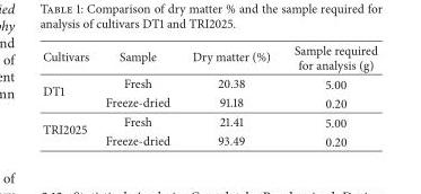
<table><thead><tr><td>Cultivars</td><td>Sample</td><td>Dry matter (%)</td><td>Sample required for analysis (g)</td></tr></thead><tbody><tr><td rowspan="2">DT1</td><td>Fresh</td><td>20.38</td><td>5.00</td></tr><tr><td>Freeze-dried</td><td>91.18</td><td>0.20</td></tr><tr><td rowspan="2">TRI2025</td><td>Fresh</td><td>21.41</td><td>5.00</td></tr><tr><td>Freeze-dried</td><td>93.49</td><td>0.20</td></tr></tbody></table>